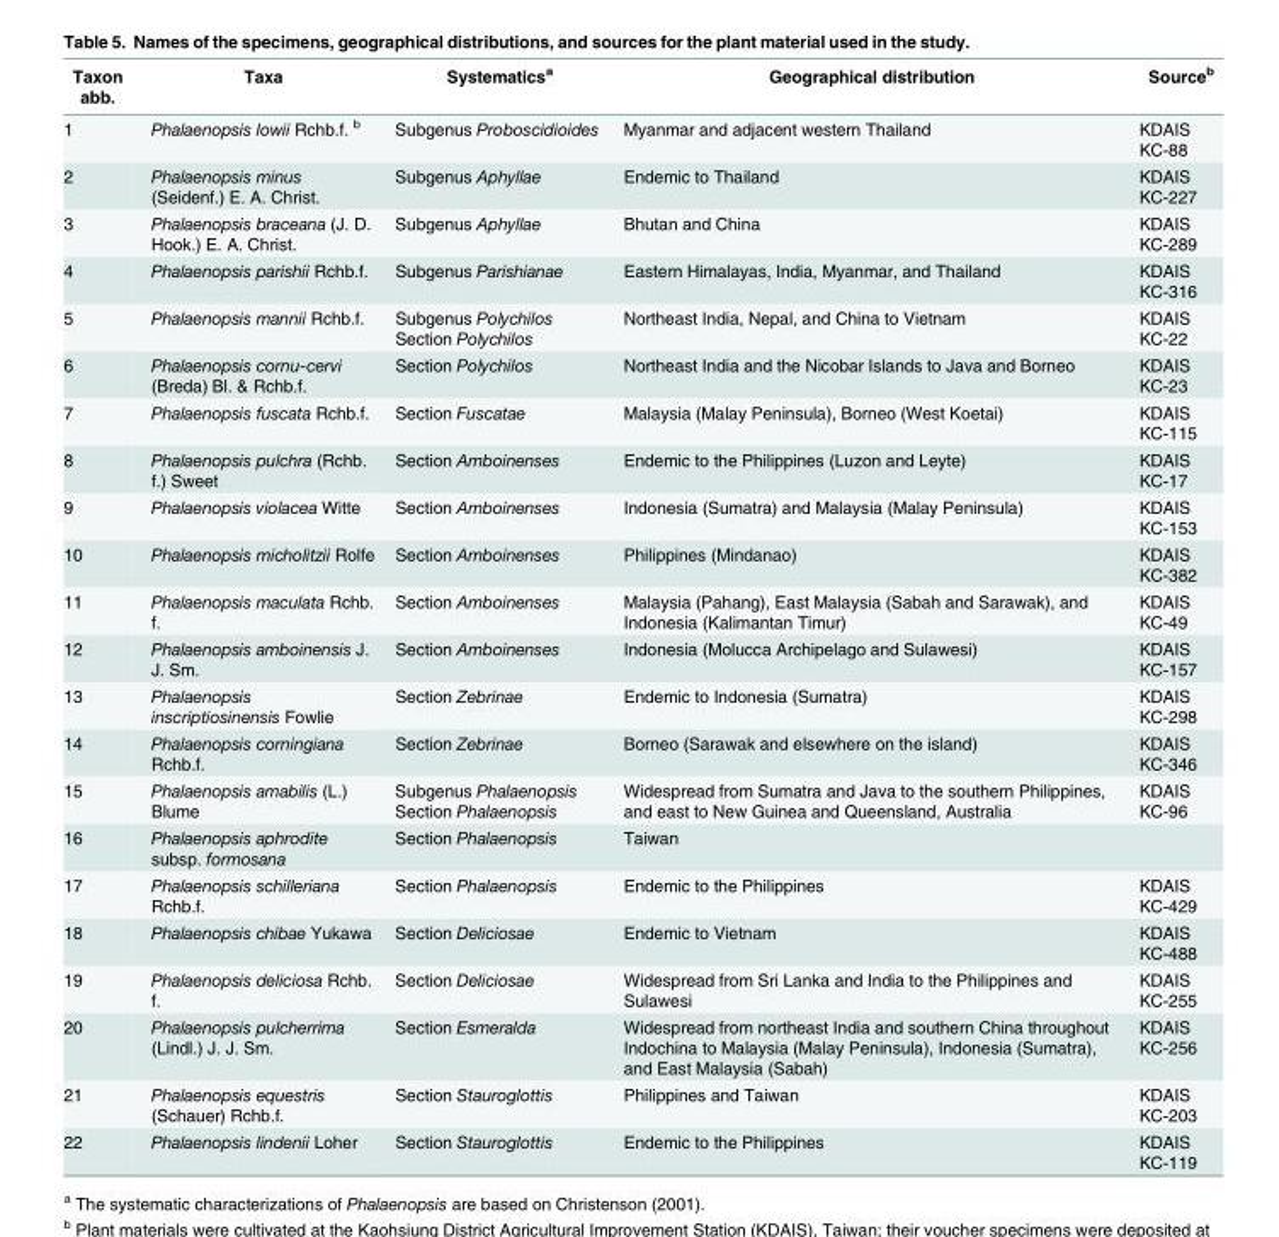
<table><thead><tr><td>Taxon abb.</td><td>Taxa</td><td>Systematics<sup>a</sup></td><td>Geographical distribution</td><td>Source<sup>b</sup></td></tr></thead><tbody><tr><td>1</td><td>Phalaenopsis lowii Rchb.f. <sup>b</sup></td><td>Subgenus Proboscidioides</td><td>Myanmar and adjacent western Thailand</td><td>KDAIS KC-88</td></tr><tr><td>2</td><td>Phalaenopsis minus (Seidenf.) E. A. Christ.</td><td>Subgenus Aphyllae</td><td>Endemic to Thailand</td><td>KDAIS KC-227</td></tr><tr><td>3</td><td>Phalaenopsis braceana (J. D. Hook.) E. A. Christ.</td><td>Subgenus Aphyllae</td><td>Bhutan and China</td><td>KDAIS KC-289</td></tr><tr><td>4</td><td>Phalaenopsis parishii Rchb.f.</td><td>Subgenus Parishianae</td><td>Eastern Himalayas, India, Myanmar, and Thailand</td><td>KDAIS KC-316</td></tr><tr><td>5</td><td>Phalaenopsis mannii Rchb.f.</td><td>Subgenus Polychilos Section Polychilos</td><td>Northeast India, Nepal, and China to Vietnam</td><td>KDAIS KC-22</td></tr><tr><td>6</td><td>Phalaenopsis cornu-cervi (Breda) Bl. &amp; Rchb.f.</td><td>Section Polychilos</td><td>Northeast India and the Nicobar Islands to Java and Borneo</td><td>KDAIS KC-23</td></tr><tr><td>7</td><td>Phalaenopsis fuscata Rchb.f.</td><td>Section Fuscatae</td><td>Malaysia (Malay Peninsula), Borneo (West Koetai)</td><td>KDAIS KC-115</td></tr><tr><td>8</td><td>Phalaenopsis pulchra (Rchb. f.) Sweet</td><td>Section Amboinenses</td><td>Endemic to the Philippines (Luzon and Leyte)</td><td>KDAIS KC-17</td></tr><tr><td>9</td><td>Phalaenopsis violacea Witte</td><td>Section Amboinenses</td><td>Indonesia (Sumatra) and Malaysia (Malay Peninsula)</td><td>KDAIS KC-153</td></tr><tr><td>10</td><td>Phalaenopsis micholitzii Rolfe</td><td>Section Amboinenses</td><td>Philippines (Mindanao)</td><td>KDAIS KC-382</td></tr><tr><td>11</td><td>Phalaenopsis maculata Rchb. f.</td><td>Section Amboinenses</td><td>Malaysia (Pahang), East Malaysia (Sabah and Sarawak), and Indonesia (Kalimantan Timur)</td><td>KDAIS KC-49</td></tr><tr><td>12</td><td>Phalaenopsis amboinensis J. J. Sm.</td><td>Section Amboinenses</td><td>Indonesia (Molucca Archipelago and Sulawesi)</td><td>KDAIS KC-157</td></tr><tr><td>13</td><td>Phalaenopsis inscriptiosinensis Fowlie</td><td>Section Zebrinae</td><td>Endemic to Indonesia (Sumatra)</td><td>KDAIS KC-298</td></tr><tr><td>14</td><td>Phalaenopsis corningiana Rchb.f.</td><td>Section Zebrinae</td><td>Borneo (Sarawak and elsewhere on the island)</td><td>KDAIS KC-346</td></tr><tr><td>15</td><td>Phalaenopsis amabilis (L.) Blume</td><td>Subgenus Phalaenopsis Section Phalaenopsis</td><td>Widespread from Sumatra and Java to the southern Philippines, and east to New Guinea and Queensland, Australia</td><td>KDAIS KC-96</td></tr><tr><td>16</td><td>Phalaenopsis aphrodite subsp. formosana</td><td>Section Phalaenopsis</td><td>Taiwan</td><td></td></tr><tr><td>17</td><td>Phalaenopsis schilleriana Rchb.f.</td><td>Section Phalaenopsis</td><td>Endemic to the Philippines</td><td>KDAIS KC-429</td></tr><tr><td>18</td><td>Phalaenopsis chibae Yukawa</td><td>Section Deliciosae</td><td>Endemic to Vietnam</td><td>KDAIS KC-488</td></tr><tr><td>19</td><td>Phalaenopsis deliciosa Rchb. f.</td><td>Section Deliciosae</td><td>Widespread from Sri Lanka and India to the Philippines and Sulawesi</td><td>KDAIS KC-255</td></tr><tr><td>20</td><td>Phalaenopsis pulcherrima (Lindl.) J. J. Sm.</td><td>Section Esmeralda</td><td>Widespread from northeast India and southern China throughout Indochina to Malaysia (Malay Peninsula), Indonesia (Sumatra), and East Malaysia (Sabah)</td><td>KDAIS KC-256</td></tr><tr><td>21</td><td>Phalaenopsis equestris (Schauer) Rchb.f.</td><td>Section Stauroglottis</td><td>Philippines and Taiwan</td><td>KDAIS KC-203</td></tr><tr><td>22</td><td>Phalaenopsis lindenii Loher</td><td>Section Stauroglottis</td><td>Endemic to the Philippines</td><td>KDAIS KC-119</td></tr></tbody></table>